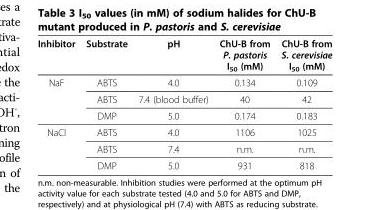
<table><thead><tr><td>Inhibitor</td><td>Substrate</td><td>pH</td><td>ChU-B from P. pastoris I<sub>50</sub> (mM)</td><td>ChU-B from S. cerevisiae I<sub>50</sub> (mM)</td></tr></thead><tbody><tr><td rowspan="3">NaF</td><td>ABTS</td><td>4.0</td><td>0.134</td><td>0.109</td></tr><tr><td>ABTS</td><td>7.4 (blood buffer)</td><td>40</td><td>42</td></tr><tr><td>DMP</td><td>5.0</td><td>0.174</td><td>0.183</td></tr><tr><td rowspan="3">NaCl</td><td>ABTS</td><td>4.0</td><td>1106</td><td>1025</td></tr><tr><td>ABTS</td><td>7.4</td><td>n.m.</td><td>n.m.</td></tr><tr><td>DMP</td><td>5.0</td><td>931</td><td>818</td></tr></tbody></table>